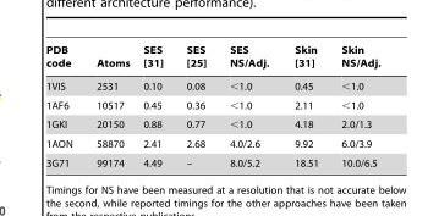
<table><thead><tr><td>PDB code</td><td>Atoms</td><td>SES [31]</td><td>SES [25]</td><td>SES NS/Adj.</td><td>Skin [31]</td><td>Skin NS/Adj.</td></tr></thead><tbody><tr><td>1VIS</td><td>2531</td><td>0.10</td><td>0.08</td><td>&lt;1.0</td><td>0.45</td><td>&lt;1.0</td></tr><tr><td>1AF6</td><td>10517</td><td>0.45</td><td>0.36</td><td>&lt;1.0</td><td>2.11</td><td>&lt;1.0</td></tr><tr><td>1GKI</td><td>20150</td><td>0.88</td><td>0.77</td><td>&lt;1.0</td><td>4.18</td><td>2.0/1.3</td></tr><tr><td>1AON</td><td>58870</td><td>2.41</td><td>2.68</td><td>4.0/2.6</td><td>9.92</td><td>6.0/3.9</td></tr><tr><td>3G71</td><td>99174</td><td>4.49</td><td>–</td><td>8.0/5.2</td><td>18.51</td><td>10.0/6.5</td></tr></tbody></table>